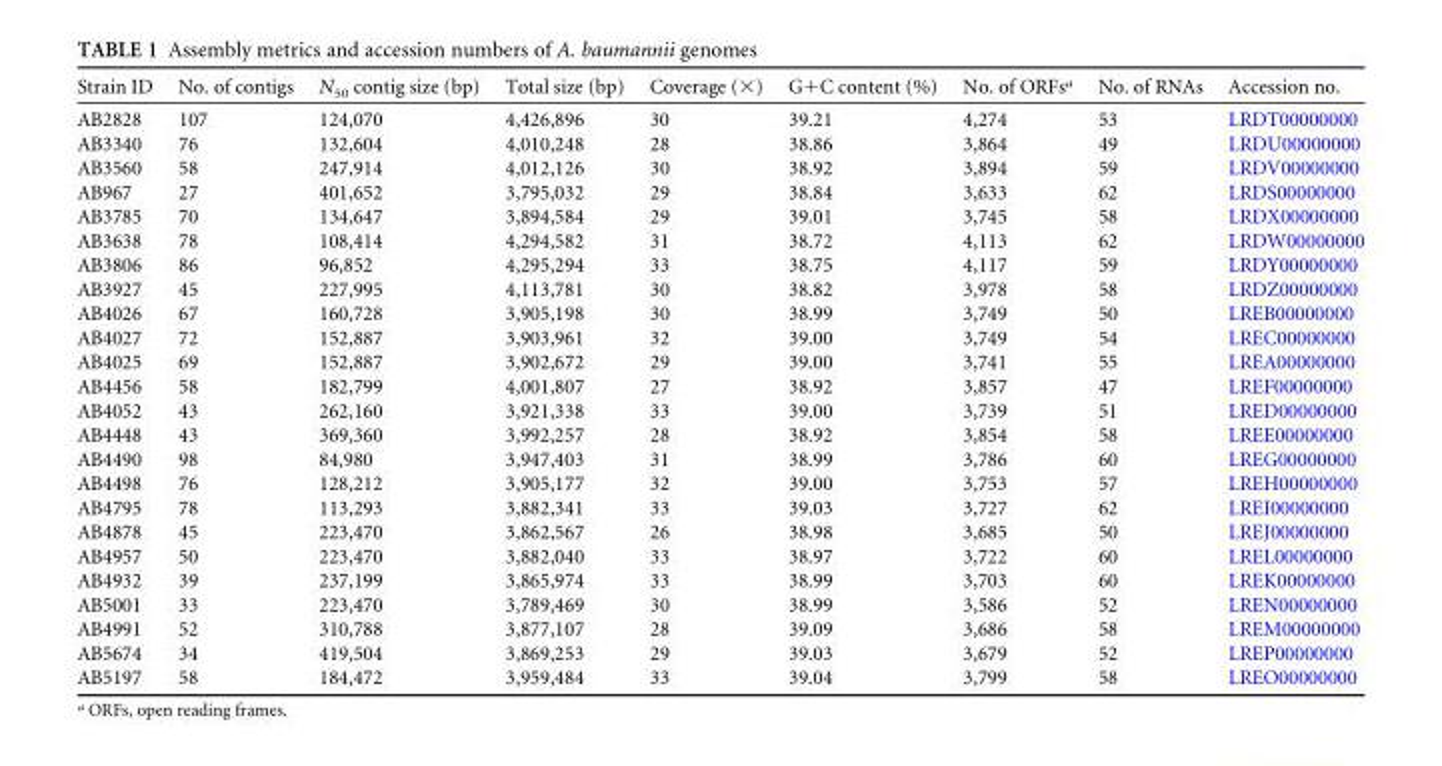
<table><thead><tr><td>Strain ID</td><td>No. of contigs</td><td>N<sub>50</sub> contig size (bp)</td><td>Total size (bp)</td><td>Coverage (×)</td><td>G+C content (%)</td><td>No. of ORFs<sup>a</sup></td><td>No. of RNAs</td><td>Accession no.</td></tr></thead><tbody><tr><td>AB2828</td><td>107</td><td>124,070</td><td>4,426,896</td><td>30</td><td>39.21</td><td>4,274</td><td>53</td><td>LRDT00000000</td></tr><tr><td>AB3340</td><td>76</td><td>132,604</td><td>4,010,248</td><td>28</td><td>38.86</td><td>3,864</td><td>49</td><td>LRDU00000000</td></tr><tr><td>AB3560</td><td>58</td><td>247,914</td><td>4,012,126</td><td>30</td><td>38.92</td><td>3,894</td><td>59</td><td>LRDV00000000</td></tr><tr><td>AB967</td><td>27</td><td>401,652</td><td>3,795,032</td><td>29</td><td>38.84</td><td>3,633</td><td>62</td><td>LRDS00000000</td></tr><tr><td>AB3785</td><td>70</td><td>134,647</td><td>3,894,584</td><td>29</td><td>39.01</td><td>3,745</td><td>58</td><td>LRDX00000000</td></tr><tr><td>AB3638</td><td>78</td><td>108,414</td><td>4,294,582</td><td>31</td><td>38.72</td><td>4,113</td><td>62</td><td>LRDW00000000</td></tr><tr><td>AB3806</td><td>86</td><td>96,852</td><td>4,295,294</td><td>33</td><td>38.75</td><td>4,117</td><td>59</td><td>LRDY00000000</td></tr><tr><td>AB3927</td><td>45</td><td>227,995</td><td>4,113,781</td><td>30</td><td>38.82</td><td>3,978</td><td>58</td><td>LRDZ00000000</td></tr><tr><td>AB4026</td><td>67</td><td>160,728</td><td>3,905,198</td><td>30</td><td>38.99</td><td>3,749</td><td>50</td><td>LREB00000000</td></tr><tr><td>AB4027</td><td>72</td><td>152,887</td><td>3,903,961</td><td>32</td><td>39.00</td><td>3,749</td><td>54</td><td>LREC00000000</td></tr><tr><td>AB4025</td><td>69</td><td>152,887</td><td>3,902,672</td><td>29</td><td>39.00</td><td>3,741</td><td>55</td><td>LREA00000000</td></tr><tr><td>AB4456</td><td>58</td><td>182,799</td><td>4,001,807</td><td>27</td><td>38.92</td><td>3,857</td><td>47</td><td>LREF00000000</td></tr><tr><td>AB4052</td><td>43</td><td>262,160</td><td>3,921,338</td><td>33</td><td>39.00</td><td>3,739</td><td>51</td><td>LRED00000000</td></tr><tr><td>AB4448</td><td>43</td><td>369,360</td><td>3,992,257</td><td>28</td><td>38.92</td><td>3,854</td><td>58</td><td>LREE00000000</td></tr><tr><td>AB4490</td><td>98</td><td>84,980</td><td>3,947,403</td><td>31</td><td>38.99</td><td>3,786</td><td>60</td><td>LREG00000000</td></tr><tr><td>AB4498</td><td>76</td><td>128,212</td><td>3,905,177</td><td>32</td><td>39.00</td><td>3,753</td><td>57</td><td>LREH00000000</td></tr><tr><td>AB4795</td><td>78</td><td>113,293</td><td>3,882,341</td><td>33</td><td>39.03</td><td>3,727</td><td>62</td><td>LREI00000000</td></tr><tr><td>AB4878</td><td>45</td><td>223,470</td><td>3,862,567</td><td>26</td><td>38.98</td><td>3,685</td><td>50</td><td>LREJ00000000</td></tr><tr><td>AB4957</td><td>50</td><td>223,470</td><td>3,882,040</td><td>33</td><td>38.97</td><td>3,722</td><td>60</td><td>LREL00000000</td></tr><tr><td>AB4932</td><td>39</td><td>237,199</td><td>3,865,974</td><td>33</td><td>38.99</td><td>3,703</td><td>60</td><td>LREK00000000</td></tr><tr><td>AB5001</td><td>33</td><td>223,470</td><td>3,789,469</td><td>30</td><td>38.99</td><td>3,586</td><td>52</td><td>LREN00000000</td></tr><tr><td>AB4991</td><td>52</td><td>310,788</td><td>3,877,107</td><td>28</td><td>39.09</td><td>3,686</td><td>58</td><td>LREM00000000</td></tr><tr><td>AB5674</td><td>34</td><td>419,504</td><td>3,869,253</td><td>29</td><td>39.03</td><td>3,679</td><td>52</td><td>LREP00000000</td></tr><tr><td>AB5197</td><td>58</td><td>184,472</td><td>3,959,484</td><td>33</td><td>39.04</td><td>3,799</td><td>58</td><td>LREO00000000</td></tr></tbody></table>